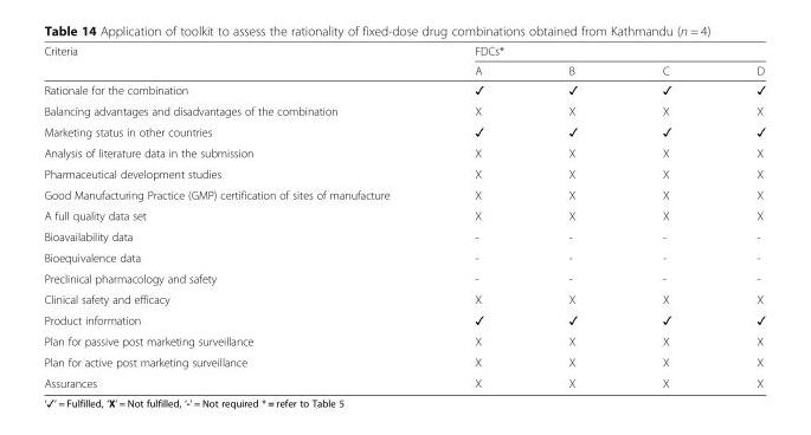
<table><thead><tr><td rowspan="2">Criteria</td><td colspan="4">FDCs*</td></tr><tr><td>A</td><td>B</td><td>C</td><td>D</td></tr></thead><tbody><tr><td>Rationale for the combination</td><td>✓</td><td>✓</td><td>✓</td><td>✓</td></tr><tr><td>Balancing advantages and disadvantages of the combination</td><td>X</td><td>X</td><td>X</td><td>X</td></tr><tr><td>Marketing status in other countries</td><td>✓</td><td>✓</td><td>✓</td><td>✓</td></tr><tr><td>Analysis of literature data in the submission</td><td>X</td><td>X</td><td>X</td><td>X</td></tr><tr><td>Pharmaceutical development studies</td><td>X</td><td>X</td><td>X</td><td>X</td></tr><tr><td>Good Manufacturing Practice (GMP) certification of sites of manufacture</td><td>X</td><td>X</td><td>X</td><td>X</td></tr><tr><td>A full quality data set</td><td>X</td><td>X</td><td>X</td><td>X</td></tr><tr><td>Bioavailability data</td><td>-</td><td>-</td><td>-</td><td>-</td></tr><tr><td>Bioequivalence data</td><td>-</td><td>-</td><td>-</td><td>-</td></tr><tr><td>Preclinical pharmacology and safety</td><td>-</td><td>-</td><td>-</td><td>-</td></tr><tr><td>Clinical safety and efficacy</td><td>X</td><td>X</td><td>X</td><td>X</td></tr><tr><td>Product information</td><td>✓</td><td>✓</td><td>✓</td><td>✓</td></tr><tr><td>Plan for passive post marketing surveillance</td><td>X</td><td>X</td><td>X</td><td>X</td></tr><tr><td>Plan for active post marketing surveillance</td><td>X</td><td>X</td><td>X</td><td>X</td></tr><tr><td>Assurances</td><td>X</td><td>X</td><td>X</td><td>X</td></tr></tbody></table>